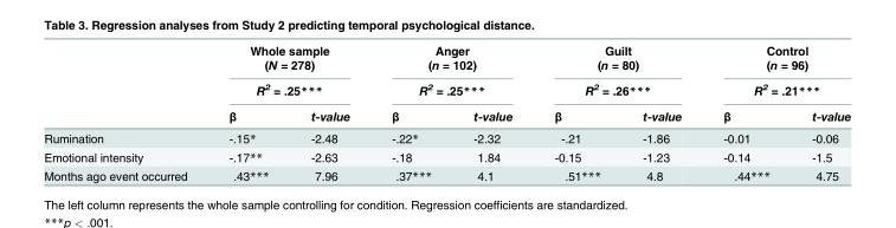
<table><thead><tr><td rowspan="4"></td><td rowspan="3" colspan="2">Whole sample (N = 278) R<sup>2</sup> = .25***</td><td rowspan="3" colspan="2">Anger (n = 102) R<sup>2</sup> = .25***</td><td rowspan="3" colspan="2">Guilt (n = 80) R<sup>2</sup> = .26***</td><td rowspan="3" colspan="2">Control (n = 96) R<sup>2</sup> = .21***</td></tr><tr></tr><tr></tr><tr><td>β</td><td>t-value</td><td>β</td><td>t-value</td><td>β</td><td>t-value</td><td>β</td><td>t-value</td></tr></thead><tbody><tr><td>Rumination</td><td>-.15*</td><td>-2.48</td><td>-.22*</td><td>-2.32</td><td>-.21ǂ</td><td>-1.86</td><td>-0.01</td><td>-0.06</td></tr><tr><td>Emotional intensity</td><td>-.17**</td><td>-2.63</td><td>-.18ǂ</td><td>1.84</td><td>-0.15</td><td>-1.23</td><td>-0.14</td><td>-1.5</td></tr><tr><td>Months ago event occurred</td><td>.43***</td><td>7.96</td><td>.37***</td><td>4.1</td><td>.51***</td><td>4.8</td><td>.44***</td><td>4.75</td></tr></tbody></table>